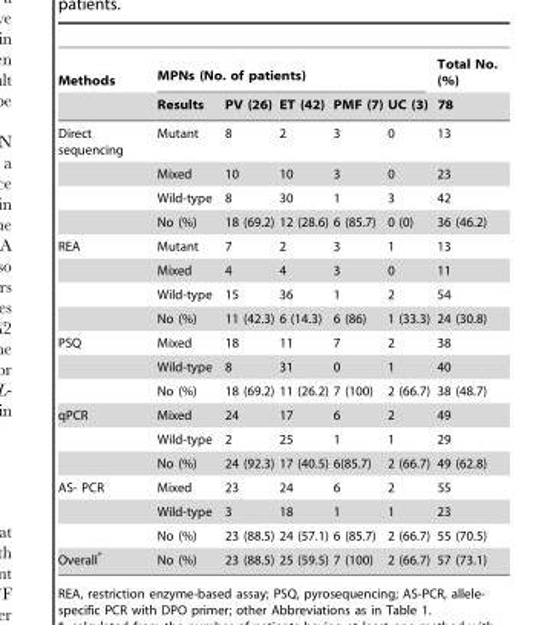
<table><thead><tr><td rowspan="2">Methods</td><td colspan="5">MPNs (No. of patients)</td><td rowspan="2">Total No. (%) 78</td></tr><tr><td>Results</td><td>PV (26)</td><td>ET (42)</td><td>PMF (7)</td><td>UC (3)</td></tr></thead><tbody><tr><td rowspan="4">Direct sequencing</td><td>Mutant</td><td>8</td><td>2</td><td>3</td><td>0</td><td>13</td></tr><tr><td>Mixed</td><td>10</td><td>10</td><td>3</td><td>0</td><td>23</td></tr><tr><td>Wild-type</td><td>8</td><td>30</td><td>1</td><td>3</td><td>42</td></tr><tr><td>No (%)</td><td>18 (69.2)</td><td>12 (28.6)</td><td>6 (85.7)</td><td>0 (0)</td><td>36 (46.2)</td></tr><tr><td rowspan="4">REA</td><td>Mutant</td><td>7</td><td>2</td><td>3</td><td>1</td><td>13</td></tr><tr><td>Mixed</td><td>4</td><td>4</td><td>3</td><td>0</td><td>11</td></tr><tr><td>Wild-type</td><td>15</td><td>36</td><td>1</td><td>2</td><td>54</td></tr><tr><td>No (%)</td><td>11 (42.3)</td><td>6 (14.3)</td><td>6 (86)</td><td>1 (33.3)</td><td>24 (30.8)</td></tr><tr><td rowspan="3">PSQ</td><td>Mixed</td><td>18</td><td>11</td><td>7</td><td>2</td><td>38</td></tr><tr><td>Wild-type</td><td>8</td><td>31</td><td>0</td><td>1</td><td>40</td></tr><tr><td>No (%)</td><td>18 (69.2)</td><td>11 (26.2)</td><td>7 (100)</td><td>2 (66.7)</td><td>38 (48.7)</td></tr><tr><td rowspan="3">qPCR</td><td>Mixed</td><td>24</td><td>17</td><td>6</td><td>2</td><td>49</td></tr><tr><td>Wild-type</td><td>2</td><td>25</td><td>1</td><td>1</td><td>29</td></tr><tr><td>No (%)</td><td>24 (92.3)</td><td>17 (40.5)</td><td>6(85.7)</td><td>2 (66.7)</td><td>49 (62.8)</td></tr><tr><td rowspan="3">AS- PCR</td><td>Mixed</td><td>23</td><td>24</td><td>6</td><td>2</td><td>55</td></tr><tr><td>Wild-type</td><td>3</td><td>18</td><td>1</td><td>1</td><td>23</td></tr><tr><td>No (%)</td><td>23 (88.5)</td><td>24 (57.1)</td><td>6 (85.7)</td><td>2 (66.7)</td><td>55 (70.5)</td></tr><tr><td>Overall*</td><td>No (%)</td><td>23 (88.5)</td><td>25 (59.5)</td><td>7 (100)</td><td>2 (66.7)</td><td>57 (73.1)</td></tr></tbody></table>